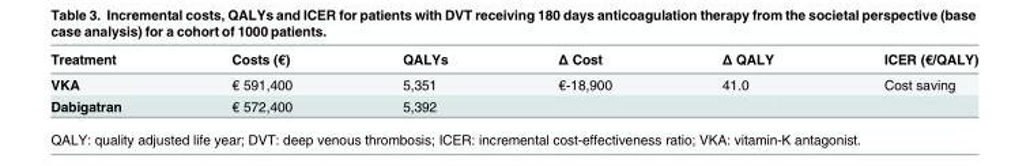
<table><thead><tr><td>Treatment</td><td>Costs (€)</td><td>QALYs</td><td>Δ Cost</td><td>Δ QALY</td><td>ICER (€/QALY)</td></tr></thead><tbody><tr><td>VKA</td><td>€ 591,400</td><td>5,351</td><td>€-18,900</td><td>41.0</td><td>Cost saving</td></tr><tr><td>Dabigatran</td><td>€ 572,400</td><td>5,392</td><td></td><td></td><td></td></tr></tbody></table>